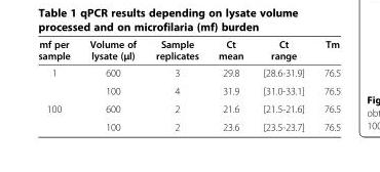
<table><thead><tr><td>mf per sample</td><td>Volume of lysate (μl)</td><td>Sample replicates</td><td>Ct mean</td><td>Ct range</td><td>Tm</td></tr></thead><tbody><tr><td rowspan="2">1</td><td>600</td><td>3</td><td>29.8</td><td>[28.6-31.9]</td><td>76.5</td></tr><tr><td>100</td><td>4</td><td>31.9</td><td>[31.0-33.1]</td><td>76.5</td></tr><tr><td rowspan="2">100</td><td>600</td><td>2</td><td>21.6</td><td>[21.5-21.6]</td><td>76.5</td></tr><tr><td>100</td><td>2</td><td>23.6</td><td>[23.5-23.7]</td><td>76.5</td></tr></tbody></table>